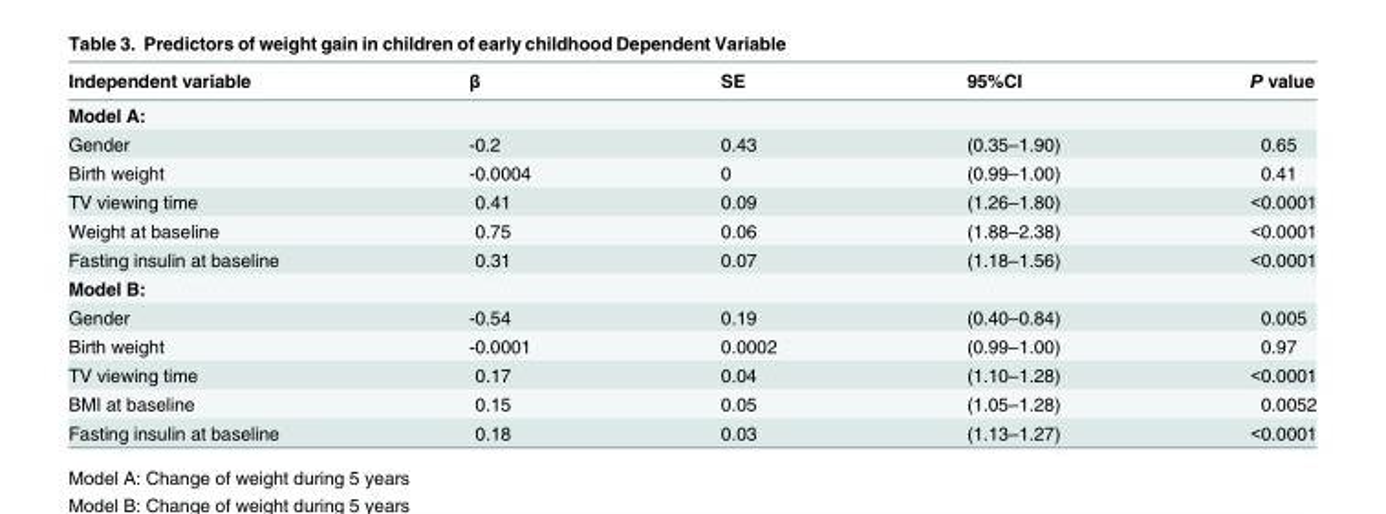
<table><thead><tr><td>Independent variable</td><td>β</td><td>SE</td><td>95%CI</td><td>P value</td></tr></thead><tbody><tr><td colspan="5">Model A:</td></tr><tr><td>Gender</td><td>-0.2</td><td>0.43</td><td>(0.35–1.90)</td><td>0.65</td></tr><tr><td>Birth weight</td><td>-0.0004</td><td>0</td><td>(0.99–1.00)</td><td>0.41</td></tr><tr><td>TV viewing time</td><td>0.41</td><td>0.09</td><td>(1.26–1.80)</td><td>&lt;0.0001</td></tr><tr><td>Weight at baseline</td><td>0.75</td><td>0.06</td><td>(1.88–2.38)</td><td>&lt;0.0001</td></tr><tr><td>Fasting insulin at baseline</td><td>0.31</td><td>0.07</td><td>(1.18–1.56)</td><td>&lt;0.0001</td></tr><tr><td colspan="5">Model B:</td></tr><tr><td>Gender</td><td>-0.54</td><td>0.19</td><td>(0.40–0.84)</td><td>0.005</td></tr><tr><td>Birth weight</td><td>-0.0001</td><td>0.0002</td><td>(0.99–1.00)</td><td>0.97</td></tr><tr><td>TV viewing time</td><td>0.17</td><td>0.04</td><td>(1.10–1.28)</td><td>&lt;0.0001</td></tr><tr><td>BMI at baseline</td><td>0.15</td><td>0.05</td><td>(1.05–1.28)</td><td>0.0052</td></tr><tr><td>Fasting insulin at baseline</td><td>0.18</td><td>0.03</td><td>(1.13–1.27)</td><td>&lt;0.0001</td></tr></tbody></table>